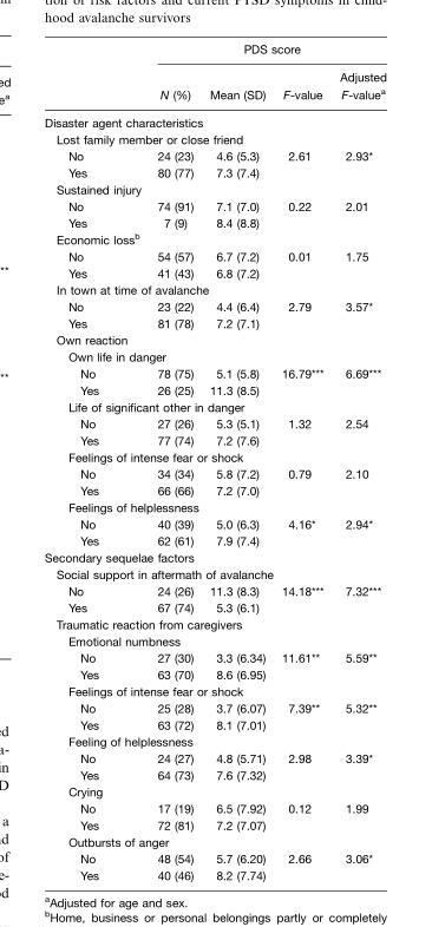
<table><thead><tr><td rowspan="2"></td><td colspan="4">PDS score</td></tr><tr><td>N (%)</td><td>Mean (SD)</td><td>F-value</td><td>Adjusted F-value<sup>a</sup></td></tr></thead><tbody><tr><td colspan="5">Disaster agent characteristics</td></tr><tr><td colspan="5">Lost family member or close friend</td></tr><tr><td>No</td><td>24 (23)</td><td>4.6 (5.3)</td><td>2.61</td><td>2.93*</td></tr><tr><td>Yes</td><td>80 (77)</td><td>7.3 (7.4)</td><td></td><td></td></tr><tr><td colspan="5">Sustained injury</td></tr><tr><td>No</td><td>74 (91)</td><td>7.1 (7.0)</td><td>0.22</td><td>2.01</td></tr><tr><td>Yes</td><td>7 (9)</td><td>8.4 (8.8)</td><td></td><td></td></tr><tr><td colspan="5">Economic loss<sup>b</sup></td></tr><tr><td>No</td><td>54 (57)</td><td>6.7 (7.2)</td><td>0.01</td><td>1.75</td></tr><tr><td>Yes</td><td>41 (43)</td><td>6.8 (7.2)</td><td></td><td></td></tr><tr><td colspan="5">In town at time of avalanche</td></tr><tr><td>No</td><td>23 (22)</td><td>4.4 (6.4)</td><td>2.79</td><td>3.57*</td></tr><tr><td>Yes</td><td>81 (78)</td><td>7.2 (7.1)</td><td></td><td></td></tr><tr><td colspan="5">Own reaction</td></tr><tr><td colspan="5">Own life in danger</td></tr><tr><td>No</td><td>78 (75)</td><td>5.1 (5.8)</td><td>16.79***</td><td>6.69***</td></tr><tr><td>Yes</td><td>26 (25)</td><td>11.3 (8.5)</td><td></td><td></td></tr><tr><td colspan="5">Life of significant other in danger</td></tr><tr><td>No</td><td>27 (26)</td><td>5.3 (5.1)</td><td>1.32</td><td>2.54</td></tr><tr><td>Yes</td><td>77 (74)</td><td>7.2 (7.6)</td><td></td><td></td></tr><tr><td colspan="5">Feelings of intense fear or shock</td></tr><tr><td>No</td><td>34 (34)</td><td>5.8 (7.2)</td><td>0.79</td><td>2.10</td></tr><tr><td>Yes</td><td>66 (66)</td><td>7.2 (7.0)</td><td></td><td></td></tr><tr><td colspan="5">Feelings of helplessness</td></tr><tr><td>No</td><td>40 (39)</td><td>5.0 (6.3)</td><td>4.16*</td><td>2.94*</td></tr><tr><td>Yes</td><td>62 (61)</td><td>7.9 (7.4)</td><td></td><td></td></tr><tr><td colspan="5">Secondary sequelae factors</td></tr><tr><td colspan="5">Social support in aftermath of avalanche</td></tr><tr><td>No</td><td>24 (26)</td><td>11.3 (8.3)</td><td>14.18***</td><td>7.32***</td></tr><tr><td>Yes</td><td>67 (74)</td><td>5.3 (6.1)</td><td></td><td></td></tr><tr><td colspan="5">Traumatic reaction from caregivers</td></tr><tr><td colspan="5">Emotional numbness</td></tr><tr><td>No</td><td>27 (30)</td><td>3.3 (6.34)</td><td>11.61**</td><td>5.59**</td></tr><tr><td>Yes</td><td>63 (70)</td><td>8.6 (6.95)</td><td></td><td></td></tr><tr><td colspan="5">Feelings of intense fear or shock</td></tr><tr><td>No</td><td>25 (28)</td><td>3.7 (6.07)</td><td>7.39**</td><td>5.32**</td></tr><tr><td>Yes</td><td>63 (72)</td><td>8.1 (7.01)</td><td></td><td></td></tr><tr><td colspan="5">Feeling of helplessness</td></tr><tr><td>No</td><td>24 (27)</td><td>4.8 (5.71)</td><td>2.98</td><td>3.39*</td></tr><tr><td>Yes</td><td>64 (73)</td><td>7.6 (7.32)</td><td></td><td></td></tr><tr><td colspan="5">Crying</td></tr><tr><td>No</td><td>17 (19)</td><td>6.5 (7.92)</td><td>0.12</td><td>1.99</td></tr><tr><td>Yes</td><td>72 (81)</td><td>7.2 (7.07)</td><td></td><td></td></tr><tr><td colspan="5">Outbursts of anger</td></tr><tr><td>No</td><td>48 (54)</td><td>5.7 (6.20)</td><td>2.66</td><td>3.06*</td></tr><tr><td>Yes</td><td>40 (46)</td><td>8.2 (7.74)</td><td></td><td></td></tr></tbody></table>